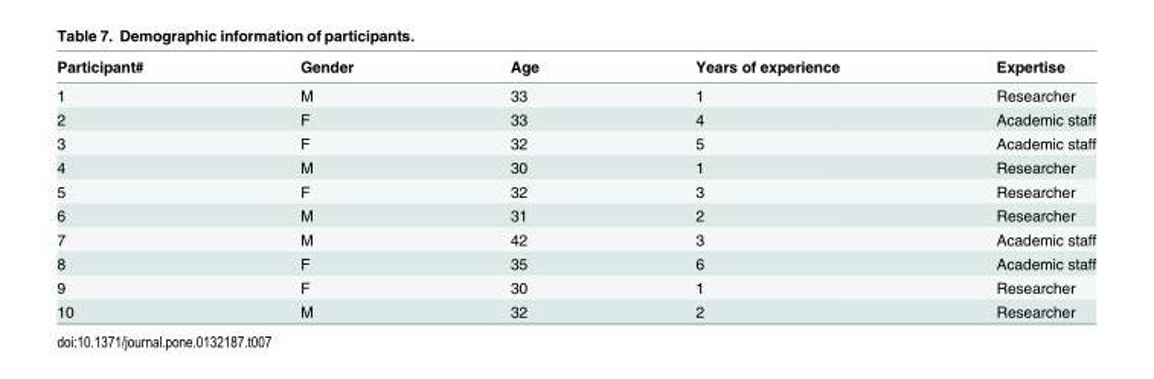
<table><thead><tr><td>Participant#</td><td>Gender</td><td>Age</td><td>Years of experience</td><td>Expertise</td></tr></thead><tbody><tr><td>1</td><td>M</td><td>33</td><td>1</td><td>Researcher</td></tr><tr><td>2</td><td>F</td><td>33</td><td>4</td><td>Academic staff</td></tr><tr><td>3</td><td>F</td><td>32</td><td>5</td><td>Academic staff</td></tr><tr><td>4</td><td>M</td><td>30</td><td>1</td><td>Researcher</td></tr><tr><td>5</td><td>F</td><td>32</td><td>3</td><td>Researcher</td></tr><tr><td>6</td><td>M</td><td>31</td><td>2</td><td>Researcher</td></tr><tr><td>7</td><td>M</td><td>42</td><td>3</td><td>Academic staff</td></tr><tr><td>8</td><td>F</td><td>35</td><td>6</td><td>Academic staff</td></tr><tr><td>9</td><td>F</td><td>30</td><td>1</td><td>Researcher</td></tr><tr><td>10</td><td>M</td><td>32</td><td>2</td><td>Researcher</td></tr></tbody></table>